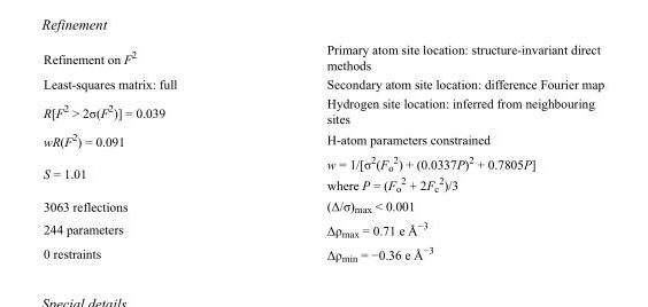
<table><tbody><tr><td>Refinement on F<sup>2</sup></td><td>Primary atom site location: structure-invariant direct methods</td></tr><tr><td>Least-squares matrix: full</td><td>Secondary atom site location: difference Fourier map</td></tr><tr><td>R[F<sup>2</sup> &gt; 2σ(F<sup>2</sup>)] = 0.039</td><td>Hydrogen site location: inferred from neighbouring sites</td></tr><tr><td>wR(F<sup>2</sup>) = 0.091</td><td>H-atom parameters constrained</td></tr><tr><td>S = 1.01</td><td>w = 1/[σ<sup>2</sup>(F<sub>o</sub> <sup>2</sup>) + (0.0337P)<sup>2</sup> + 0.7805P] where P = (F<sub>o</sub> <sup>2</sup> + 2F<sub>c</sub> <sup>2</sup>)/3</td></tr><tr><td>3063 reflections</td><td>(Δ/σ)<sub>max</sub> &lt; 0.001</td></tr><tr><td>244 parameters</td><td>Δρ<sub>max</sub> = 0.71 e Å<sup>−3</sup></td></tr><tr><td>0 restraints</td><td>Δρmin = −0.36 e Å−3</td></tr></tbody></table>